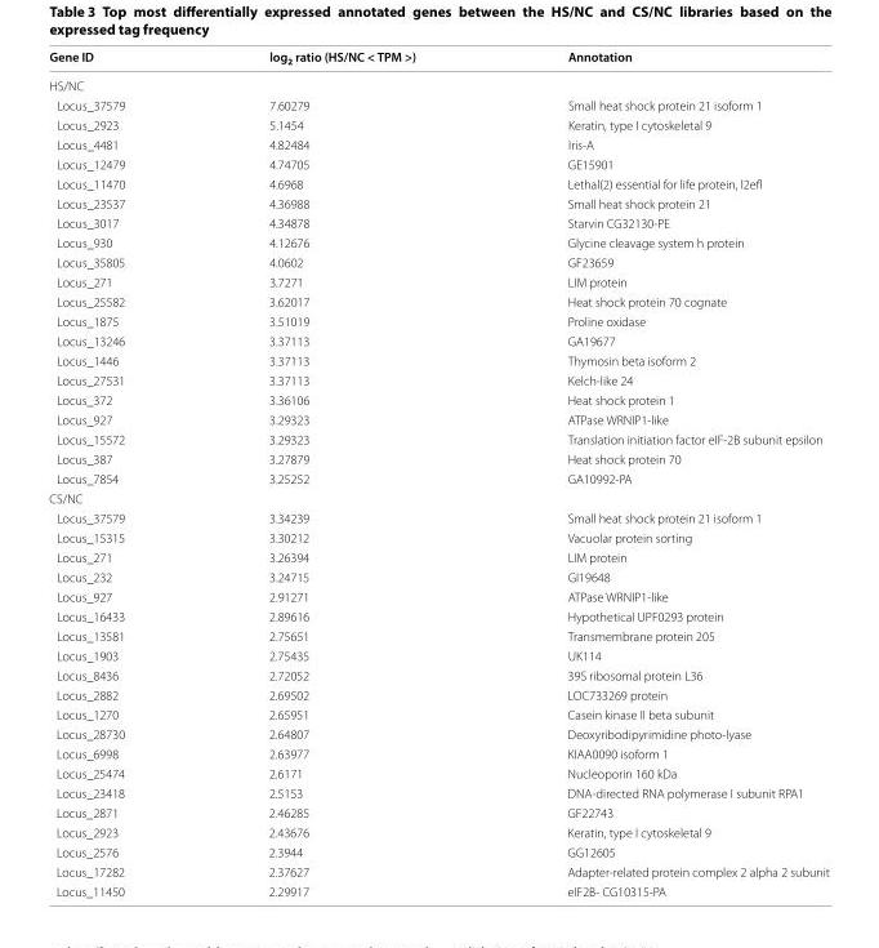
<table><thead><tr><td>Gene ID</td><td>log<sub>2</sub> ratio (HS/NC &lt; TPM &gt;)</td><td>Annotation</td></tr></thead><tbody><tr><td colspan="3">HS/NC</td></tr><tr><td>Locus_37579</td><td>7.60279</td><td>Small heat shock protein 21 isoform 1</td></tr><tr><td>Locus_2923</td><td>5.1454</td><td>Keratin, type I cytoskeletal 9</td></tr><tr><td>Locus_4481</td><td>4.82484</td><td>Iris-A</td></tr><tr><td>Locus_12479</td><td>4.74705</td><td>GE15901</td></tr><tr><td>Locus_11470</td><td>4.6968</td><td>Lethal(2) essential for life protein, l2efl</td></tr><tr><td>Locus_23537</td><td>4.36988</td><td>Small heat shock protein 21</td></tr><tr><td>Locus_3017</td><td>4.34878</td><td>Starvin CG32130-PE</td></tr><tr><td>Locus_930</td><td>4.12676</td><td>Glycine cleavage system h protein</td></tr><tr><td>Locus_35805</td><td>4.0602</td><td>GF23659</td></tr><tr><td>Locus_271</td><td>3.7271</td><td>LIM protein</td></tr><tr><td>Locus_25582</td><td>3.62017</td><td>Heat shock protein 70 cognate</td></tr><tr><td>Locus_1875</td><td>3.51019</td><td>Proline oxidase</td></tr><tr><td>Locus_13246</td><td>3.37113</td><td>GA19677</td></tr><tr><td>Locus_1446</td><td>3.37113</td><td>Thymosin beta isoform 2</td></tr><tr><td>Locus_27531</td><td>3.37113</td><td>Kelch-like 24</td></tr><tr><td>Locus_372</td><td>3.36106</td><td>Heat shock protein 1</td></tr><tr><td>Locus_927</td><td>3.29323</td><td>ATPase WRNIP1-like</td></tr><tr><td>Locus_15572</td><td>3.29323</td><td>Translation initiation factor eIF-2B subunit epsilon</td></tr><tr><td>Locus_387</td><td>3.27879</td><td>Heat shock protein 70</td></tr><tr><td>Locus_7854</td><td>3.25252</td><td>GA10992-PA</td></tr><tr><td colspan="3">CS/NC</td></tr><tr><td>Locus_37579</td><td>3.34239</td><td>Small heat shock protein 21 isoform 1</td></tr><tr><td>Locus_15315</td><td>3.30212</td><td>Vacuolar protein sorting</td></tr><tr><td>Locus_271</td><td>3.26394</td><td>LIM protein</td></tr><tr><td>Locus_232</td><td>3.24715</td><td>GI19648</td></tr><tr><td>Locus_927</td><td>2.91271</td><td>ATPase WRNIP1-like</td></tr><tr><td>Locus_16433</td><td>2.89616</td><td>Hypothetical UPF0293 protein</td></tr><tr><td>Locus_13581</td><td>2.75651</td><td>Transmembrane protein 205</td></tr><tr><td>Locus_1903</td><td>2.75435</td><td>UK114</td></tr><tr><td>Locus_8436</td><td>2.72052</td><td>39S ribosomal protein L36</td></tr><tr><td>Locus_2882</td><td>2.69502</td><td>LOC733269 protein</td></tr><tr><td>Locus_1270</td><td>2.65951</td><td>Casein kinase II beta subunit</td></tr><tr><td>Locus_28730</td><td>2.64807</td><td>Deoxyribodipyrimidine photo-lyase</td></tr><tr><td>Locus_6998</td><td>2.63977</td><td>KIAA0090 isoform 1</td></tr><tr><td>Locus_25474</td><td>2.6171</td><td>Nucleoporin 160 kDa</td></tr><tr><td>Locus_23418</td><td>2.5153</td><td>DNA-directed RNA polymerase I subunit RPA1</td></tr><tr><td>Locus_2871</td><td>2.46285</td><td>GF22743</td></tr><tr><td>Locus_2923</td><td>2.43676</td><td>Keratin, type I cytoskeletal 9</td></tr><tr><td>Locus_2576</td><td>2.3944</td><td>GG12605</td></tr><tr><td>Locus_17282</td><td>2.37627</td><td>Adapter-related protein complex 2 alpha 2 subunit</td></tr><tr><td>Locus_11450</td><td>2.29917</td><td>eIF2B- CG10315-PA</td></tr></tbody></table>